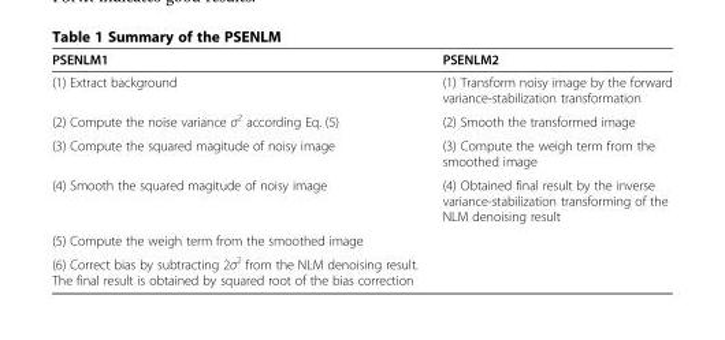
<table><thead><tr><td>PSENLM1</td><td>PSENLM2</td></tr></thead><tbody><tr><td>(1) Extract background</td><td>(1) Transform noisy image by the forward variance-stabilization transformation</td></tr><tr><td>(2) Compute the noise variance σ<sup>2</sup> according Eq. (5)</td><td>(2) Smooth the transformed image</td></tr><tr><td>(3) Compute the squared magitude of noisy image</td><td>(3) Compute the weigh term from the smoothed image</td></tr><tr><td>(4) Smooth the squared magitude of noisy image</td><td>(4) Obtained final result by the inverse variance-stabilization transforming of the NLM denoising result</td></tr><tr><td colspan="2">(5) Compute the weigh term from the smoothed image</td></tr><tr><td>(6) Correct bias by subtracting 2σ<sup>2</sup> from the NLM denoising result. The final result is obtained by squared root of the bias correction</td><td></td></tr></tbody></table>